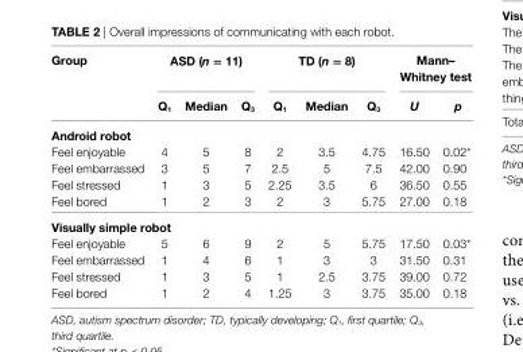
<table><thead><tr><td rowspan="2">group</td><td colspan="3">asD (n = 11)</td><td colspan="3">TD (n = 8)</td><td colspan="2">Mann– Whitney test</td></tr><tr><td>Q<sub>1</sub></td><td>Median</td><td>Q<sub>3</sub></td><td>Q<sub>1</sub></td><td>Median</td><td>Q<sub>3</sub></td><td>U</td><td>p</td></tr></thead><tbody><tr><td colspan="9">android robot</td></tr><tr><td>Feel enjoyable</td><td>4</td><td>5</td><td>8</td><td>2</td><td>3.5</td><td>4.75</td><td>16.50</td><td>0.02*</td></tr><tr><td>Feel embarrassed</td><td>3</td><td>5</td><td>7</td><td>2.5</td><td>5</td><td>7.5</td><td>42.00</td><td>0.90</td></tr><tr><td>Feel stressed</td><td>1</td><td>3</td><td>5</td><td>2.25</td><td>3.5</td><td>6</td><td>36.50</td><td>0.55</td></tr><tr><td>Feel bored</td><td>1</td><td>2</td><td>3</td><td>2</td><td>3</td><td>5.75</td><td>27.00</td><td>0.18</td></tr><tr><td colspan="9">Visually simple robot</td></tr><tr><td>Feel enjoyable</td><td>5</td><td>6</td><td>9</td><td>2</td><td>5</td><td>5.75</td><td>17.50</td><td>0.03*</td></tr><tr><td>Feel embarrassed</td><td>1</td><td>4</td><td>6</td><td>1</td><td>3</td><td>3</td><td>31.50</td><td>0.31</td></tr><tr><td>Feel stressed</td><td>1</td><td>3</td><td>5</td><td>1</td><td>2.5</td><td>3.75</td><td>39.00</td><td>0.72</td></tr><tr><td>Feel bored</td><td>1</td><td>2</td><td>4</td><td>1.25</td><td>3</td><td>3.75</td><td>35.00</td><td>0.18</td></tr></tbody></table>